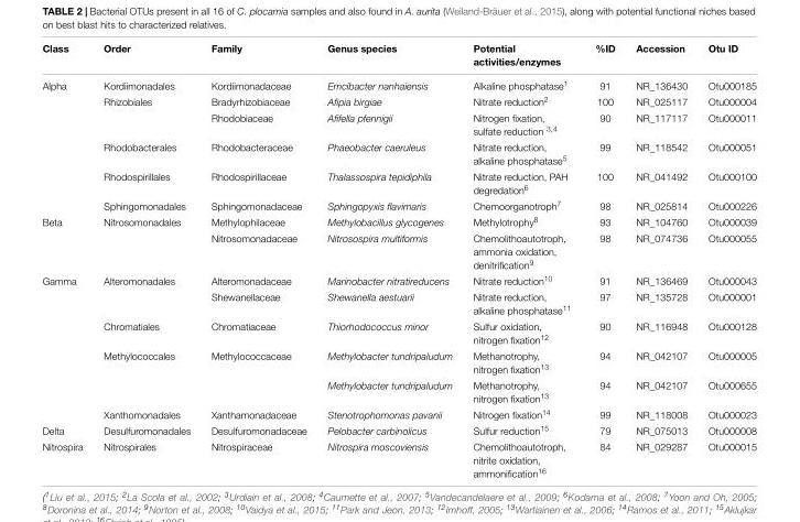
<table><thead><tr><td>Class</td><td>Order</td><td>Family</td><td>Genus species</td><td>Potential activities/enzymes</td><td>%ID</td><td>Accession</td><td>Otu ID</td></tr></thead><tbody><tr><td rowspan="6">Alpha</td><td>Kordiimonadales</td><td>Kordiimonadaceae</td><td>Emcibacter nanhaiensis</td><td>Alkaline phosphatase<sup>1</sup></td><td>91</td><td>NR_136430</td><td>Otu000185</td></tr><tr><td>Rhizobiales</td><td>Bradyrhizobiaceae</td><td>Afipia birgiae</td><td>Nitrate reduction<sup>2</sup></td><td>100</td><td>NR_025117</td><td>Otu000004</td></tr><tr><td></td><td>Rhodobiaceae</td><td>Afifella pfennigii</td><td>Nitrogen fixation, sulfate reduction <sup>3,4</sup></td><td>90</td><td>NR_117117</td><td>Otu000011</td></tr><tr><td>Rhodobacterales</td><td>Rhodobacteraceae</td><td>Phaeobacter caeruleus</td><td>Nitrate reduction, alkaline phosphatase<sup>5</sup></td><td>99</td><td>NR_118542</td><td>Otu000051</td></tr><tr><td>Rhodospirillales</td><td>Rhodospirillaceae</td><td>Thalassospira tepidiphila</td><td>Nitrate reduction, PAH degredation<sup>6</sup></td><td>100</td><td>NR_041492</td><td>Otu000100</td></tr><tr><td>Sphingomonadales</td><td>Sphingomonadaceae</td><td>Sphingopyxis flavimaris</td><td>Chemoorganotroph<sup>7</sup></td><td>98</td><td>NR_025814</td><td>Otu000226</td></tr><tr><td rowspan="2">Beta</td><td>Nitrosomonadales</td><td>Methylophilaceae</td><td>Methylobacillus glycogenes</td><td>Methylotrophy<sup>8</sup></td><td>93</td><td>NR_104760</td><td>Otu000039</td></tr><tr><td></td><td>Nitrosomonadaceae</td><td>Nitrosospira multiformis</td><td>Chemolithoautotroph, ammonia oxidation, denitrification<sup>9</sup></td><td>98</td><td>NR_074736</td><td>Otu000055</td></tr><tr><td rowspan="6">Gamma</td><td>Alteromonadales</td><td>Alteromonadaceae</td><td>Marinobacter nitratireducens</td><td>Nitrate reduction<sup>10</sup></td><td>91</td><td>NR_136469</td><td>Otu000043</td></tr><tr><td></td><td>Shewanellaceae</td><td>Shewanella aestuarii</td><td>Nitrate reduction, alkaline phosphatase<sup>11</sup></td><td>97</td><td>NR_135728</td><td>Otu000001</td></tr><tr><td>Chromatiales</td><td>Chromatiaceae</td><td>Thiorhodococcus minor</td><td>Sulfur oxidation, nitrogen fixation<sup>12</sup></td><td>90</td><td>NR_116948</td><td>Otu000128</td></tr><tr><td>Methylococcales</td><td>Methylococcaceae</td><td>Methylobacter tundripaludum</td><td>Methanotrophy, nitrogen fixation<sup>13</sup></td><td>94</td><td>NR_042107</td><td>Otu000005</td></tr><tr><td></td><td></td><td>Methylobacter tundripaludum</td><td>Methanotrophy, nitrogen fixation<sup>13</sup></td><td>94</td><td>NR_042107</td><td>Otu000655</td></tr><tr><td>Xanthomonadales</td><td>Xanthamonadaceae</td><td>Stenotrophomonas pavanii</td><td>Nitrogen fixation<sup>14</sup></td><td>99</td><td>NR_118008</td><td>Otu000023</td></tr><tr><td>Delta</td><td>Desulfuromonadales</td><td>Desulfuromonadaceae</td><td>Pelobacter carbinolicus</td><td>Sulfur reduction<sup>15</sup></td><td>79</td><td>NR_075013</td><td>Otu000008</td></tr><tr><td>Nitrospira</td><td>Nitrospirales</td><td>Nitrospiraceae</td><td>Nitrospira moscoviensis</td><td>Chemolithoautotroph, nitrite oxidation, ammonification<sup>16</sup></td><td>84</td><td>NR_029287</td><td>Otu000015</td></tr></tbody></table>